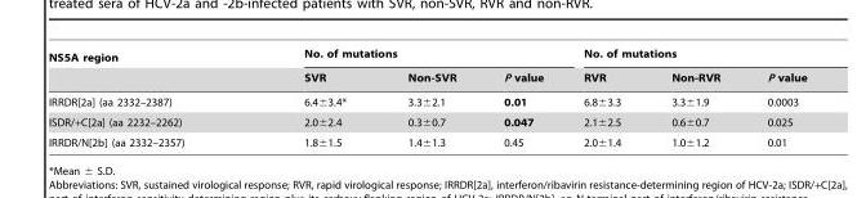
<table><thead><tr><td rowspan="2">NS5A region</td><td colspan="3">No. of mutations</td><td colspan="3">No. of mutations</td></tr><tr><td>SVR</td><td>Non-SVR</td><td>P value</td><td>RVR</td><td>Non-RVR</td><td>P value</td></tr></thead><tbody><tr><td>IRRDR[2a] (aa 2332–2387)</td><td>6.4±3.4*</td><td>3.3±2.1</td><td>0.01</td><td>6.8±3.3</td><td>3.3±1.9</td><td>0.0003</td></tr><tr><td>ISDR/+C[2a] (aa 2232–2262)</td><td>2.0±2.4</td><td>0.3±0.7</td><td>0.047</td><td>2.1±2.5</td><td>0.6±0.7</td><td>0.025</td></tr><tr><td>IRRDR/N[2b] (aa 2332–2357)</td><td>1.8±1.5</td><td>1.4±1.3</td><td>0.45</td><td>2.0±1.4</td><td>1.0±1.2</td><td>0.01</td></tr></tbody></table>